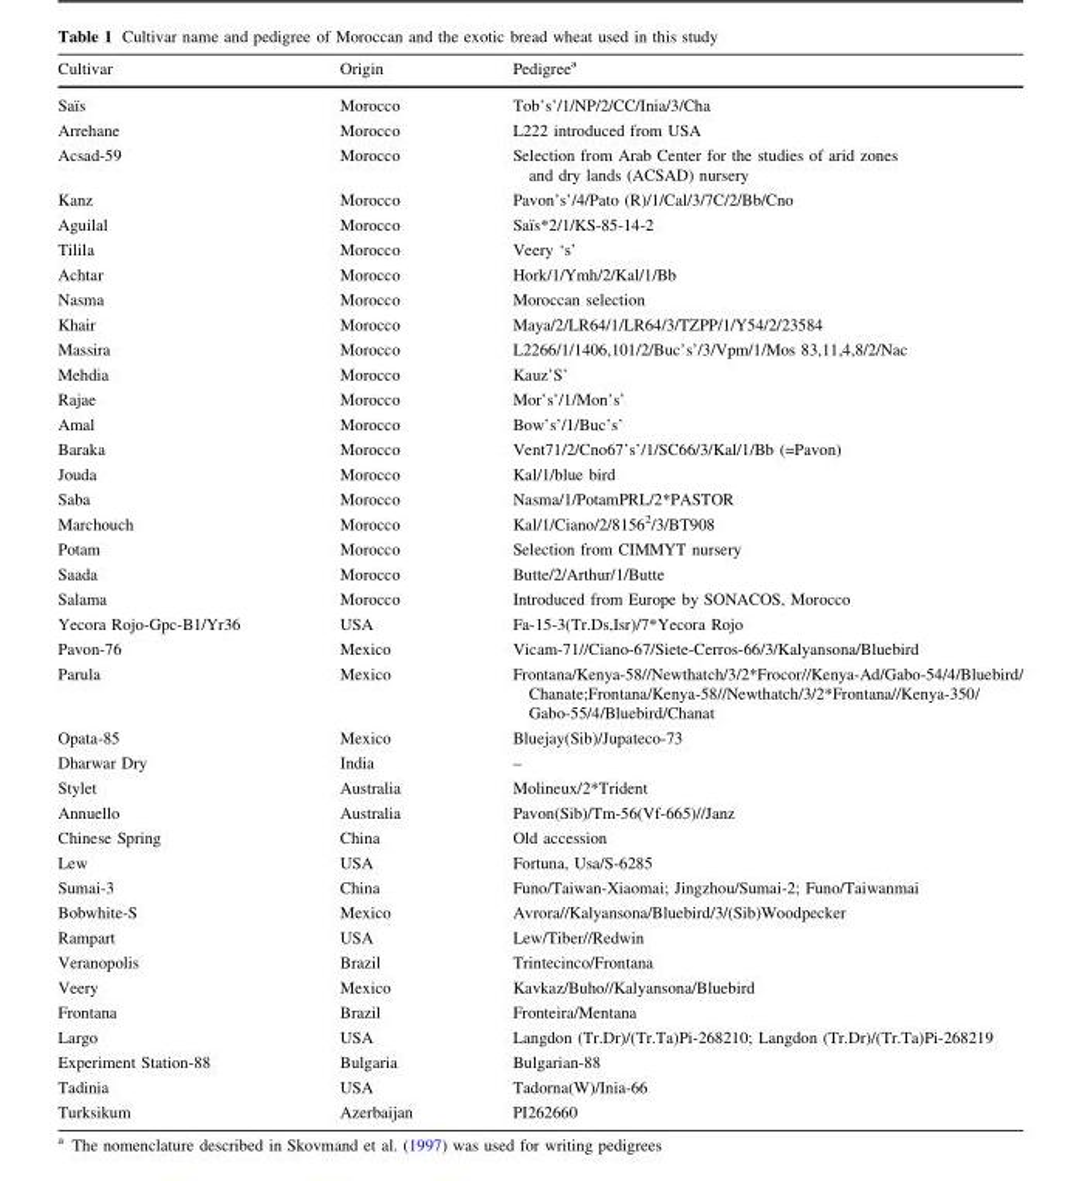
<table><thead><tr><td>Cultivar</td><td>Origin</td><td>Pedigree<sup>a</sup></td></tr></thead><tbody><tr><td>Saı¨s</td><td>Morocco</td><td>Tob’s’/1/NP/2/CC/Inia/3/Cha</td></tr><tr><td>Arrehane</td><td>Morocco</td><td>L222 introduced from USA</td></tr><tr><td>Acsad-59</td><td>Morocco</td><td>Selection from Arab Center for the studies of arid zones and dry lands (ACSAD) nursery</td></tr><tr><td>Kanz</td><td>Morocco</td><td>Pavon’s’/4/Pato (R)/1/Cal/3/7C/2/Bb/Cno</td></tr><tr><td>Aguilal</td><td>Morocco</td><td>Saı¨s*2/1/KS-85-14-2</td></tr><tr><td>Tilila</td><td>Morocco</td><td>Veery ‘s’</td></tr><tr><td>Achtar</td><td>Morocco</td><td>Hork/1/Ymh/2/Kal/1/Bb</td></tr><tr><td>Nasma</td><td>Morocco</td><td>Moroccan selection</td></tr><tr><td>Khair</td><td>Morocco</td><td>Maya/2/LR64/1/LR64/3/TZPP/1/Y54/2/23584</td></tr><tr><td>Massira</td><td>Morocco</td><td>L2266/1/1406,101/2/Buc’s’/3/Vpm/1/Mos 83,11,4,8/2/Nac</td></tr><tr><td>Mehdia</td><td>Morocco</td><td>Kauz’S’</td></tr><tr><td>Rajae</td><td>Morocco</td><td>Mor’s’/1/Mon’s’</td></tr><tr><td>Amal</td><td>Morocco</td><td>Bow’s’/1/Buc’s’</td></tr><tr><td>Baraka</td><td>Morocco</td><td>Vent71/2/Cno67’s’/1/SC66/3/Kal/1/Bb (=Pavon)</td></tr><tr><td>Jouda</td><td>Morocco</td><td>Kal/1/blue bird</td></tr><tr><td>Saba</td><td>Morocco</td><td>Nasma/1/PotamPRL/2*PASTOR</td></tr><tr><td>Marchouch</td><td>Morocco</td><td>Kal/1/Ciano/2/8156<sup>2</sup>/3/BT908</td></tr><tr><td>Potam</td><td>Morocco</td><td>Selection from CIMMYT nursery</td></tr><tr><td>Saada</td><td>Morocco</td><td>Butte/2/Arthur/1/Butte</td></tr><tr><td>Salama</td><td>Morocco</td><td>Introduced from Europe by SONACOS, Morocco</td></tr><tr><td>Yecora Rojo-Gpc-B1/Yr36</td><td>USA</td><td>Fa-15-3(Tr.Ds,Isr)/7*Yecora Rojo</td></tr><tr><td>Pavon-76</td><td>Mexico</td><td>Vicam-71//Ciano-67/Siete-Cerros-66/3/Kalyansona/Bluebird</td></tr><tr><td>Parula</td><td>Mexico</td><td>Frontana/Kenya-58//Newthatch/3/2*Frocor//Kenya-Ad/Gabo-54/4/Bluebird/ Chanate;Frontana/Kenya-58//Newthatch/3/2*Frontana//Kenya-350/ Gabo-55/4/Bluebird/Chanat</td></tr><tr><td>Opata-85</td><td>Mexico</td><td>Bluejay(Sib)/Jupateco-73</td></tr><tr><td>Dharwar Dry</td><td>India</td><td>–</td></tr><tr><td>Stylet</td><td>Australia</td><td>Molineux/2*Trident</td></tr><tr><td>Annuello</td><td>Australia</td><td>Pavon(Sib)/Tm-56(Vf-665)//Janz</td></tr><tr><td>Chinese Spring</td><td>China</td><td>Old accession</td></tr><tr><td>Lew</td><td>USA</td><td>Fortuna, Usa/S-6285</td></tr><tr><td>Sumai-3</td><td>China</td><td>Funo/Taiwan-Xiaomai; Jingzhou/Sumai-2; Funo/Taiwanmai</td></tr><tr><td>Bobwhite-S</td><td>Mexico</td><td>Avrora//Kalyansona/Bluebird/3/(Sib)Woodpecker</td></tr><tr><td>Rampart</td><td>USA</td><td>Lew/Tiber//Redwin</td></tr><tr><td>Veranopolis</td><td>Brazil</td><td>Trintecinco/Frontana</td></tr><tr><td>Veery</td><td>Mexico</td><td>Kavkaz/Buho//Kalyansona/Bluebird</td></tr><tr><td>Frontana</td><td>Brazil</td><td>Fronteira/Mentana</td></tr><tr><td>Largo</td><td>USA</td><td>Langdon (Tr.Dr)/(Tr.Ta)Pi-268210; Langdon (Tr.Dr)/(Tr.Ta)Pi-268219</td></tr><tr><td>Experiment Station-88</td><td>Bulgaria</td><td>Bulgarian-88</td></tr><tr><td>Tadinia</td><td>USA</td><td>Tadorna(W)/Inia-66</td></tr><tr><td>Turksikum</td><td>Azerbaijan</td><td>PI262660</td></tr></tbody></table>